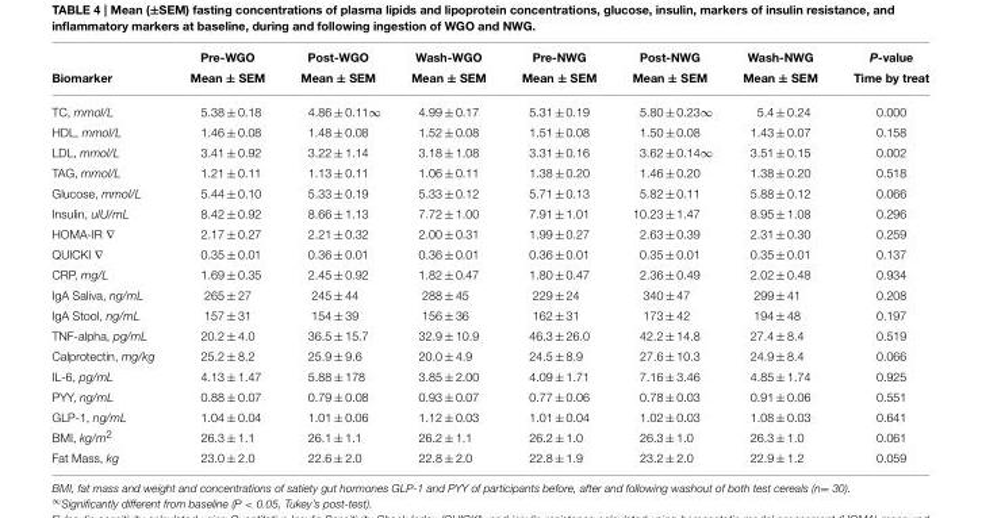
<table><thead><tr><td rowspan="2">Biomarker</td><td rowspan="2">Pre-WGO Mean ± SEM</td><td rowspan="2">Post-WGO Mean ± SEM</td><td rowspan="2">Wash-WGO Mean ± SEM</td><td rowspan="2">Pre-NWG Mean ± SEM</td><td rowspan="2">Post-NWG Mean ± SEM</td><td rowspan="2">Wash-NWG Mean ± SEM</td><td rowspan="2">P-value Time by treat</td></tr><tr></tr></thead><tbody><tr><td>TC, mmol/L</td><td>5.38 ± 0.18</td><td>4.86 ± 0.11∞</td><td>4.99 ± 0.17</td><td>5.31 ± 0.19</td><td>5.80 ± 0.23∞</td><td>5.4 ± 0.24</td><td>0.000</td></tr><tr><td>HDL, mmol/L</td><td>1.46 ± 0.08</td><td>1.48 ± 0.08</td><td>1.52 ± 0.08</td><td>1.51 ± 0.08</td><td>1.50 ± 0.08</td><td>1.43 ± 0.07</td><td>0.158</td></tr><tr><td>LDL, mmol/L</td><td>3.41 ± 0.92</td><td>3.22 ± 1.14</td><td>3.18 ± 1.08</td><td>3.31 ± 0.16</td><td>3.62 ± 0.14∞</td><td>3.51 ± 0.15</td><td>0.002</td></tr><tr><td>TAG, mmol/L</td><td>1.21 ± 0.11</td><td>1.13 ± 0.11</td><td>1.06 ± 0.11</td><td>1.38 ± 0.20</td><td>1.46 ± 0.20</td><td>1.38 ± 0.20</td><td>0.518</td></tr><tr><td>Glucose, mmol/L</td><td>5.44 ± 0.10</td><td>5.33 ± 0.19</td><td>5.33 ± 0.12</td><td>5.71 ± 0.13</td><td>5.82 ± 0.11</td><td>5.88 ± 0.12</td><td>0.066</td></tr><tr><td>Insulin, ulU/mL</td><td>8.42 ± 0.92</td><td>8.66 ± 1.13</td><td>7.72 ± 1.00</td><td>7.91 ± 1.01</td><td>10.23 ± 1.47</td><td>8.95 ± 1.08</td><td>0.296</td></tr><tr><td>HOMA-IR ∇</td><td>2.17 ± 0.27</td><td>2.21 ± 0.32</td><td>2.00 ± 0.31</td><td>1.99 ± 0.27</td><td>2.63 ± 0.39</td><td>2.31 ± 0.30</td><td>0.259</td></tr><tr><td>QUICKI ∇</td><td>0.35 ± 0.01</td><td>0.36 ± 0.01</td><td>0.36 ± 0.01</td><td>0.36 ± 0.01</td><td>0.35 ± 0.01</td><td>0.35 ± 0.01</td><td>0.137</td></tr><tr><td>CRP, mg/L</td><td>1.69 ± 0.35</td><td>2.45 ± 0.92</td><td>1.82 ± 0.47</td><td>1.80 ± 0.47</td><td>2.36 ± 0.49</td><td>2.02 ± 0.48</td><td>0.934</td></tr><tr><td>IgA Saliva, ng/mL</td><td>265 ± 27</td><td>245 ± 44</td><td>288 ± 45</td><td>229 ± 24</td><td>340 ± 47</td><td>299 ± 41</td><td>0.208</td></tr><tr><td>IgA Stool, ng/mL</td><td>157 ± 31</td><td>154 ± 39</td><td>156 ± 36</td><td>162 ± 31</td><td>173 ± 42</td><td>194 ± 48</td><td>0.197</td></tr><tr><td>TNF-alpha, pg/mL</td><td>20.2 ± 4.0</td><td>36.5 ± 15.7</td><td>32.9 ± 10.9</td><td>46.3 ± 26.0</td><td>42.2 ± 14.8</td><td>27.4 ± 8.4</td><td>0.519</td></tr><tr><td>Calprotectin, mg/kg</td><td>25.2 ± 8.2</td><td>25.9 ± 9.6</td><td>20.0 ± 4.9</td><td>24.5 ± 8.9</td><td>27.6 ± 10.3</td><td>24.9 ± 8.4</td><td>0.066</td></tr><tr><td>IL-6, pg/mL</td><td>4.13 ± 1.47</td><td>5.88 ± 178</td><td>3.85 ± 2.00</td><td>4.09 ± 1.71</td><td>7.16 ± 3.46</td><td>4.85 ± 1.74</td><td>0.925</td></tr><tr><td>PYY, ng/mL</td><td>0.88 ± 0.07</td><td>0.79 ± 0.08</td><td>0.93 ± 0.07</td><td>0.77 ± 0.06</td><td>0.78 ± 0.03</td><td>0.91 ± 0.06</td><td>0.551</td></tr><tr><td>GLP-1, ng/mL</td><td>1.04 ± 0.04</td><td>1.01 ± 0.06</td><td>1.12 ± 0.03</td><td>1.01 ± 0.04</td><td>1.02 ± 0.03</td><td>1.08 ± 0.03</td><td>0.641</td></tr><tr><td>BMI, kg/m<sup>2</sup></td><td>26.3 ± 1.1</td><td>26.1 ± 1.1</td><td>26.2 ± 1.1</td><td>26.2 ± 1.0</td><td>26.3 ± 1.0</td><td>26.3 ± 1.0</td><td>0.061</td></tr><tr><td>Fat Mass, kg</td><td>23.0 ± 2.0</td><td>22.6 ± 2.0</td><td>22.8 ± 2.0</td><td>22.8 ± 1.9</td><td>23.2 ± 2.0</td><td>22.9 ± 1.2</td><td>0.059</td></tr></tbody></table>